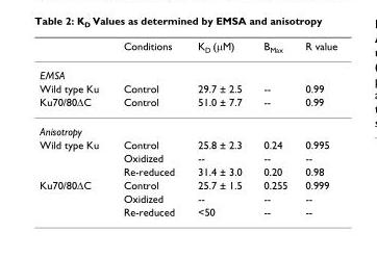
<table><thead><tr><td></td><td>Conditions</td><td>K<sub>D</sub> (μM)</td><td>B<sub>Max</sub></td><td>R value</td></tr></thead><tbody><tr><td colspan="5">EMSA</td></tr><tr><td>Wild type Ku</td><td>Control</td><td>29.7 ± 2.5</td><td>--</td><td>0.99</td></tr><tr><td>Ku70/80ΔC</td><td>Control</td><td>51.0 ± 7.7</td><td>--</td><td>0.99</td></tr><tr><td colspan="5">Anisotropy</td></tr><tr><td rowspan="3">Wild type Ku</td><td>Control</td><td>25.8 ± 2.3</td><td>0.24</td><td>0.995</td></tr><tr><td>Oxidized</td><td>--</td><td>--</td><td>--</td></tr><tr><td>Re-reduced</td><td>31.4 ± 3.0</td><td>0.20</td><td>0.98</td></tr><tr><td rowspan="3">Ku70/80ΔC</td><td>Control</td><td>25.7 ± 1.5</td><td>0.255</td><td>0.999</td></tr><tr><td>Oxidized</td><td>--</td><td>--</td><td>--</td></tr><tr><td>Re-reduced</td><td>&lt;50</td><td>--</td><td>--</td></tr></tbody></table>